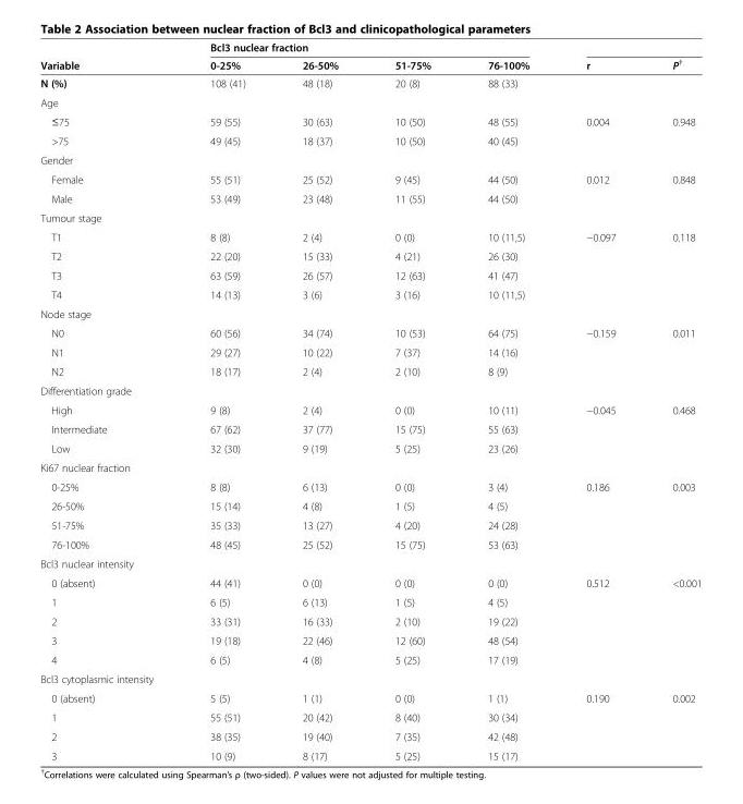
<table><thead><tr><td rowspan="2">Variable</td><td colspan="4">Bcl3 nuclear fraction</td><td rowspan="2">r</td><td rowspan="2">P<sup>†</sup></td></tr><tr><td>0-25%</td><td>26-50%</td><td>51-75%</td><td>76-100%</td></tr></thead><tbody><tr><td>N (%)</td><td>108 (41)</td><td>48 (18)</td><td>20 (8)</td><td>88 (33)</td><td></td><td></td></tr><tr><td colspan="7">Age</td></tr><tr><td>≤75</td><td>59 (55)</td><td>30 (63)</td><td>10 (50)</td><td>48 (55)</td><td>0.004</td><td>0.948</td></tr><tr><td>&gt;75</td><td>49 (45)</td><td>18 (37)</td><td>10 (50)</td><td>40 (45)</td><td></td><td></td></tr><tr><td colspan="7">Gender</td></tr><tr><td>Female</td><td>55 (51)</td><td>25 (52)</td><td>9 (45)</td><td>44 (50)</td><td>0.012</td><td>0.848</td></tr><tr><td>Male</td><td>53 (49)</td><td>23 (48)</td><td>11 (55)</td><td>44 (50)</td><td></td><td></td></tr><tr><td colspan="7">Tumour stage</td></tr><tr><td>T1</td><td>8 (8)</td><td>2 (4)</td><td>0 (0)</td><td>10 (11,5)</td><td>−0.097</td><td>0.118</td></tr><tr><td>T2</td><td>22 (20)</td><td>15 (33)</td><td>4 (21)</td><td>26 (30)</td><td></td><td></td></tr><tr><td>T3</td><td>63 (59)</td><td>26 (57)</td><td>12 (63)</td><td>41 (47)</td><td></td><td></td></tr><tr><td>T4</td><td>14 (13)</td><td>3 (6)</td><td>3 (16)</td><td>10 (11,5)</td><td></td><td></td></tr><tr><td colspan="7">Node stage</td></tr><tr><td>N0</td><td>60 (56)</td><td>34 (74)</td><td>10 (53)</td><td>64 (75)</td><td>−0.159</td><td>0.011</td></tr><tr><td>N1</td><td>29 (27)</td><td>10 (22)</td><td>7 (37)</td><td>14 (16)</td><td></td><td></td></tr><tr><td>N2</td><td>18 (17)</td><td>2 (4)</td><td>2 (10)</td><td>8 (9)</td><td></td><td></td></tr><tr><td colspan="7">Differentiation grade</td></tr><tr><td>High</td><td>9 (8)</td><td>2 (4)</td><td>0 (0)</td><td>10 (11)</td><td>−0.045</td><td>0.468</td></tr><tr><td>Intermediate</td><td>67 (62)</td><td>37 (77)</td><td>15 (75)</td><td>55 (63)</td><td></td><td></td></tr><tr><td>Low</td><td>32 (30)</td><td>9 (19)</td><td>5 (25)</td><td>23 (26)</td><td></td><td></td></tr><tr><td colspan="7">Ki67 nuclear fraction</td></tr><tr><td>0-25%</td><td>8 (8)</td><td>6 (13)</td><td>0 (0)</td><td>3 (4)</td><td>0.186</td><td>0.003</td></tr><tr><td>26-50%</td><td>15 (14)</td><td>4 (8)</td><td>1 (5)</td><td>4 (5)</td><td></td><td></td></tr><tr><td>51-75%</td><td>35 (33)</td><td>13 (27)</td><td>4 (20)</td><td>24 (28)</td><td></td><td></td></tr><tr><td>76-100%</td><td>48 (45)</td><td>25 (52)</td><td>15 (75)</td><td>53 (63)</td><td></td><td></td></tr><tr><td colspan="7">Bcl3 nuclear intensity</td></tr><tr><td>0 (absent)</td><td>44 (41)</td><td>0 (0)</td><td>0 (0)</td><td>0 (0)</td><td>0.512</td><td>&lt;0.001</td></tr><tr><td>1</td><td>6 (5)</td><td>6 (13)</td><td>1 (5)</td><td>4 (5)</td><td></td><td></td></tr><tr><td>2</td><td>33 (31)</td><td>16 (33)</td><td>2 (10)</td><td>19 (22)</td><td></td><td></td></tr><tr><td>3</td><td>19 (18)</td><td>22 (46)</td><td>12 (60)</td><td>48 (54)</td><td></td><td></td></tr><tr><td>4</td><td>6 (5)</td><td>4 (8)</td><td>5 (25)</td><td>17 (19)</td><td></td><td></td></tr><tr><td colspan="7">Bcl3 cytoplasmic intensity</td></tr><tr><td>0 (absent)</td><td>5 (5)</td><td>1 (1)</td><td>0 (0)</td><td>1 (1)</td><td>0.190</td><td>0.002</td></tr><tr><td>1</td><td>55 (51)</td><td>20 (42)</td><td>8 (40)</td><td>30 (34)</td><td></td><td></td></tr><tr><td>2</td><td>38 (35)</td><td>19 (40)</td><td>7 (35)</td><td>42 (48)</td><td></td><td></td></tr><tr><td>3</td><td>10 (9)</td><td>8 (17)</td><td>5 (25)</td><td>15 (17)</td><td></td><td></td></tr></tbody></table>